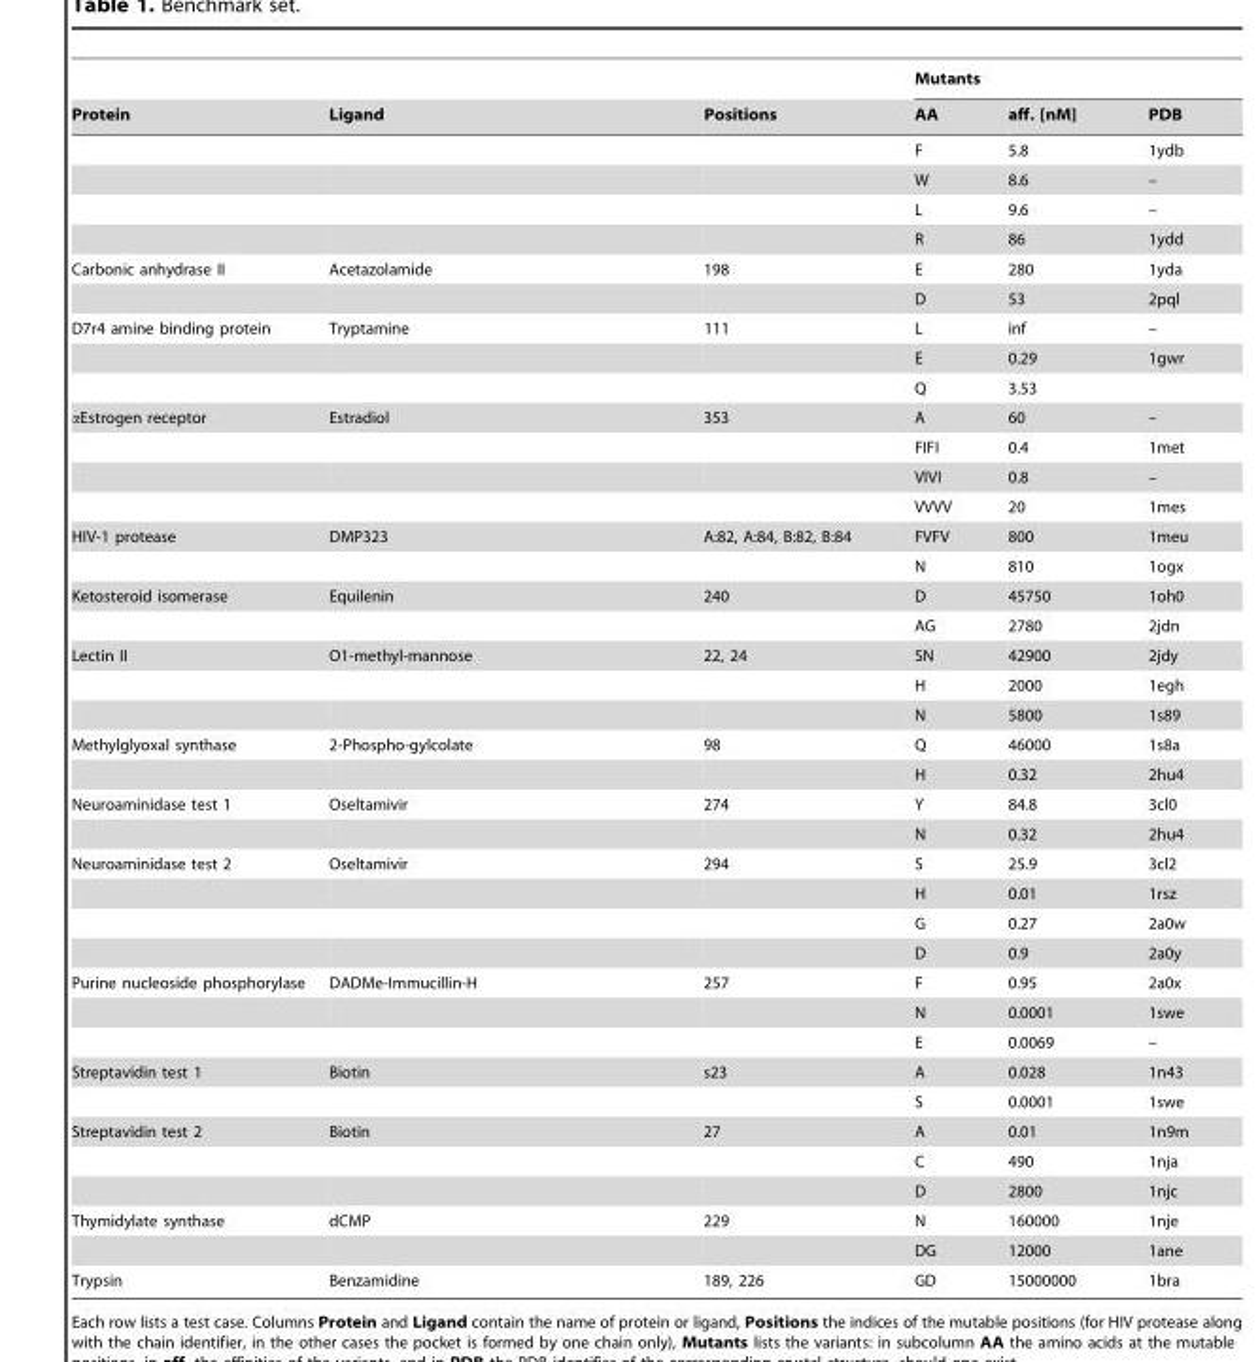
<table><thead><tr><td rowspan="2">Protein</td><td rowspan="2">Ligand</td><td rowspan="2">Positions</td><td colspan="3">Mutants</td></tr><tr><td>AA</td><td>aff. [nM]</td><td>PDB</td></tr></thead><tbody><tr><td></td><td></td><td></td><td>F</td><td>5.8</td><td>1ydb</td></tr><tr><td></td><td></td><td></td><td>W</td><td>8.6</td><td>–</td></tr><tr><td></td><td></td><td></td><td>L</td><td>9.6</td><td>–</td></tr><tr><td></td><td></td><td></td><td>R</td><td>86</td><td>1ydd</td></tr><tr><td rowspan="2">Carbonic anhydrase II</td><td>Acetazolamide</td><td>198</td><td>E</td><td>280</td><td>1yda</td></tr><tr><td></td><td></td><td>D</td><td>53</td><td>2pql</td></tr><tr><td rowspan="3">D7r4 amine binding protein</td><td>Tryptamine</td><td>111</td><td>L</td><td>inf</td><td>–</td></tr><tr><td></td><td></td><td>E</td><td>0.29</td><td>1gwr</td></tr><tr><td></td><td></td><td>Q</td><td>3.53</td><td></td></tr><tr><td rowspan="4">aEstrogen receptor</td><td>Estradiol</td><td>353</td><td>A</td><td>60</td><td>–</td></tr><tr><td></td><td></td><td>FIFI</td><td>0.4</td><td>1met</td></tr><tr><td></td><td></td><td>VIVI</td><td>0.8</td><td>–</td></tr><tr><td></td><td></td><td>VVVV</td><td>20</td><td>1mes</td></tr><tr><td rowspan="2">HIV-1 protease</td><td>DMP323</td><td>A:82, A:84, B:82, B:84</td><td>FVFV</td><td>800</td><td>1meu</td></tr><tr><td></td><td></td><td>N</td><td>810</td><td>1ogx</td></tr><tr><td rowspan="2">Ketosteroid isomerase</td><td>Equilenin</td><td>240</td><td>D</td><td>45750</td><td>1oh0</td></tr><tr><td></td><td></td><td>AG</td><td>2780</td><td>2jdn</td></tr><tr><td rowspan="3">Lectin II</td><td>O1-methyl-mannose</td><td>22, 24</td><td>SN</td><td>42900</td><td>2jdy</td></tr><tr><td></td><td></td><td>H</td><td>2000</td><td>1egh</td></tr><tr><td></td><td></td><td>N</td><td>5800</td><td>1s89</td></tr><tr><td rowspan="2">Methylglyoxal synthase</td><td>2-Phospho-gylcolate</td><td>98</td><td>Q</td><td>46000</td><td>1s8a</td></tr><tr><td></td><td></td><td>H</td><td>0.32</td><td>2hu4</td></tr><tr><td rowspan="2">Neuroaminidase test 1</td><td>Oseltamivir</td><td>274</td><td>Y</td><td>84.8</td><td>3cl0</td></tr><tr><td></td><td></td><td>N</td><td>0.32</td><td>2hu4</td></tr><tr><td rowspan="4">Neuroaminidase test 2</td><td>Oseltamivir</td><td>294</td><td>S</td><td>25.9</td><td>3cl2</td></tr><tr><td></td><td></td><td>H</td><td>0.01</td><td>1rsz</td></tr><tr><td></td><td></td><td>G</td><td>0.27</td><td>2a0w</td></tr><tr><td></td><td></td><td>D</td><td>0.9</td><td>2a0y</td></tr><tr><td rowspan="3">Purine nucleoside phosphorylase</td><td>DADMe-Immucillin-H</td><td>257</td><td>F</td><td>0.95</td><td>2a0x</td></tr><tr><td></td><td></td><td>N</td><td>0.0001</td><td>1swe</td></tr><tr><td></td><td></td><td>E</td><td>0.0069</td><td>–</td></tr><tr><td rowspan="2">Streptavidin test 1</td><td>Biotin</td><td>s23</td><td>A</td><td>0.028</td><td>1n43</td></tr><tr><td></td><td></td><td>S</td><td>0.0001</td><td>1swe</td></tr><tr><td rowspan="3">Streptavidin test 2</td><td>Biotin</td><td>27</td><td>A</td><td>0.01</td><td>1n9m</td></tr><tr><td></td><td></td><td>C</td><td>490</td><td>1nja</td></tr><tr><td></td><td></td><td>D</td><td>2800</td><td>1njc</td></tr><tr><td rowspan="2">Thymidylate synthase</td><td>dCMP</td><td>229</td><td>N</td><td>160000</td><td>1nje</td></tr><tr><td></td><td></td><td>DG</td><td>12000</td><td>1ane</td></tr><tr><td>Trypsin</td><td>Benzamidine</td><td>189, 226</td><td>GD</td><td>15000000</td><td>1bra</td></tr></tbody></table>